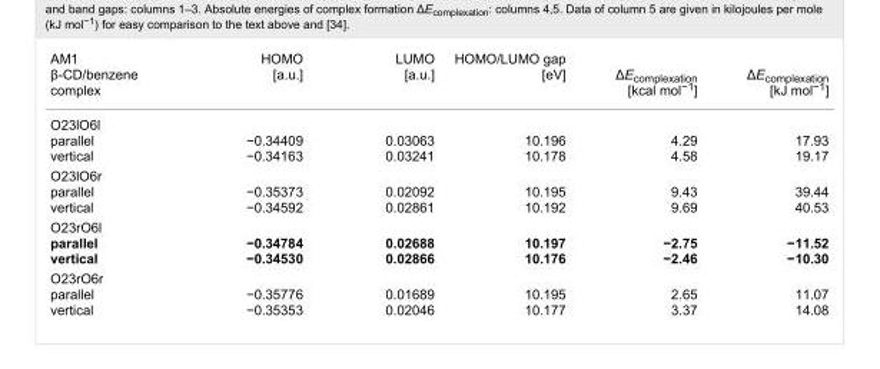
<table><tbody><tr><td>AM1 β-CD/benzene complex</td><td>HOMO [a.u.]</td><td>LUMO [a.u.]</td><td>HOMO/LUMO gap [eV]</td><td>ΔE<sub>complexation</sub> [kcal mol<sup>−1</sup>]</td><td>ΔE<sub>complexation</sub> [kJ mol<sup>−1</sup>]</td></tr><tr><td>O23lO6l parallel vertical</td><td>−0.34409 −0.34163</td><td>0.03063 0.03241</td><td>10.196 10.178</td><td>4.29 4.58</td><td>17.93 19.17</td></tr><tr><td>O23lO6r parallel vertical</td><td>−0.35373 −0.34592</td><td>0.02092 0.02861</td><td>10.195 10.192</td><td>9.43 9.69</td><td>39.44 40.53</td></tr><tr><td>O23rO6l parallel vertical</td><td>−0.34784 −0.34530</td><td>0.02688 0.02866</td><td>10.197 10.176</td><td>−2.75 −2.46</td><td>−11.52 −10.30</td></tr><tr><td>O23rO6r parallel vertical</td><td>−0.35776 −0.35353</td><td>0.01689 0.02046</td><td>10.195 10.177</td><td>2.65 3.37</td><td>11.07 14.08</td></tr></tbody></table>